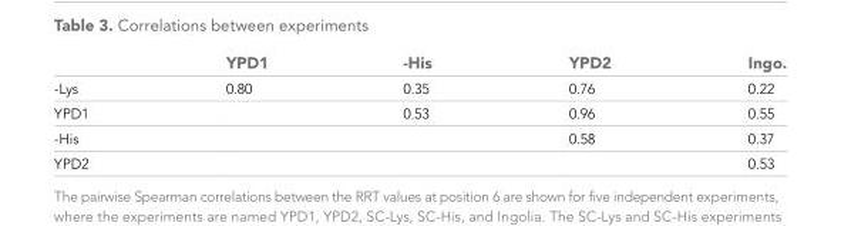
<table><thead><tr><td></td><td>YPD1</td><td>-His</td><td>YPD2</td><td>Ingo.</td></tr></thead><tbody><tr><td>-Lys</td><td>0.80</td><td>0.35</td><td>0.76</td><td>0.22</td></tr><tr><td>YPD1</td><td></td><td>0.53</td><td>0.96</td><td>0.55</td></tr><tr><td>-His</td><td></td><td></td><td>0.58</td><td>0.37</td></tr><tr><td>YPD2</td><td></td><td></td><td></td><td>0.53</td></tr></tbody></table>